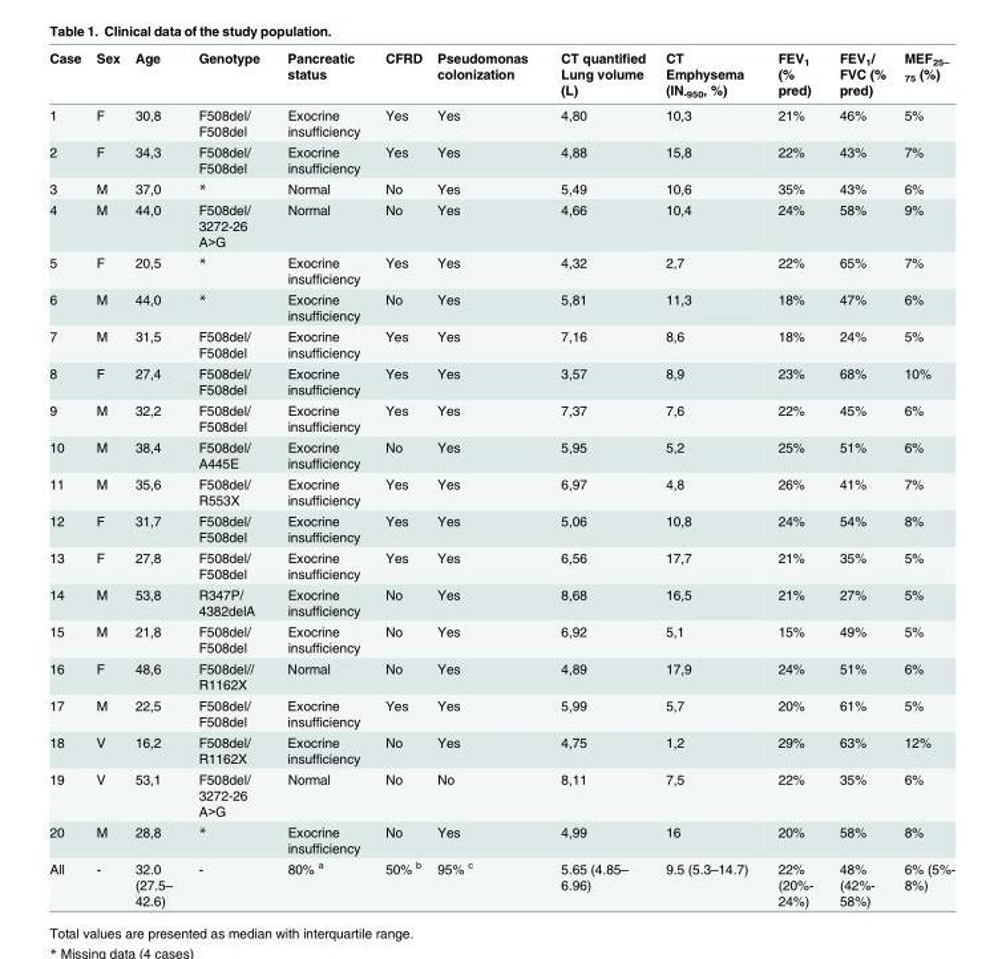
<table><thead><tr><td>Case</td><td>Sex</td><td>Age</td><td>Genotype</td><td>Pancreatic status</td><td>CFRD</td><td>Pseudomonas colonization</td><td>CT quantified Lung volume (L)</td><td>CT Emphysema (IN<sub>-950</sub>, %)</td><td>FEV<sub>1</sub> (% pred)</td><td>FEV<sub>1</sub>/ FVC (% pred)</td><td>MEF<sub>25– 75</sub> (%)</td></tr></thead><tbody><tr><td>1</td><td>F</td><td>30,8</td><td>F508del/ F508del</td><td>Exocrine insufficiency</td><td>Yes</td><td>Yes</td><td>4,80</td><td>10,3</td><td>21%</td><td>46%</td><td>5%</td></tr><tr><td>2</td><td>F</td><td>34,3</td><td>F508del/ F508del</td><td>Exocrine insufficiency</td><td>Yes</td><td>Yes</td><td>4,88</td><td>15,8</td><td>22%</td><td>43%</td><td>7%</td></tr><tr><td>3</td><td>M</td><td>37,0</td><td>*</td><td>Normal</td><td>No</td><td>Yes</td><td>5,49</td><td>10,6</td><td>35%</td><td>43%</td><td>6%</td></tr><tr><td>4</td><td>M</td><td>44,0</td><td>F508del/ 3272-26 A&gt;G</td><td>Normal</td><td>No</td><td>Yes</td><td>4,66</td><td>10,4</td><td>24%</td><td>58%</td><td>9%</td></tr><tr><td>5</td><td>F</td><td>20,5</td><td>*</td><td>Exocrine insufficiency</td><td>Yes</td><td>Yes</td><td>4,32</td><td>2,7</td><td>22%</td><td>65%</td><td>7%</td></tr><tr><td>6</td><td>M</td><td>44,0</td><td>*</td><td>Exocrine insufficiency</td><td>No</td><td>Yes</td><td>5,81</td><td>11,3</td><td>18%</td><td>47%</td><td>6%</td></tr><tr><td>7</td><td>M</td><td>31,5</td><td>F508del/ F508del</td><td>Exocrine insufficiency</td><td>Yes</td><td>Yes</td><td>7,16</td><td>8,6</td><td>18%</td><td>24%</td><td>5%</td></tr><tr><td>8</td><td>F</td><td>27,4</td><td>F508del/ F508del</td><td>Exocrine insufficiency</td><td>Yes</td><td>Yes</td><td>3,57</td><td>8,9</td><td>23%</td><td>68%</td><td>10%</td></tr><tr><td>9</td><td>M</td><td>32,2</td><td>F508del/ F508del</td><td>Exocrine insufficiency</td><td>Yes</td><td>Yes</td><td>7,37</td><td>7,6</td><td>22%</td><td>45%</td><td>6%</td></tr><tr><td>10</td><td>M</td><td>38,4</td><td>F508del/ A445E</td><td>Exocrine insufficiency</td><td>No</td><td>Yes</td><td>5,95</td><td>5,2</td><td>25%</td><td>51%</td><td>6%</td></tr><tr><td>11</td><td>M</td><td>35,6</td><td>F508del/ R553X</td><td>Exocrine insufficiency</td><td>Yes</td><td>Yes</td><td>6,97</td><td>4,8</td><td>26%</td><td>41%</td><td>7%</td></tr><tr><td>12</td><td>F</td><td>31,7</td><td>F508del/ F508del</td><td>Exocrine insufficiency</td><td>Yes</td><td>Yes</td><td>5,06</td><td>10,8</td><td>24%</td><td>54%</td><td>8%</td></tr><tr><td>13</td><td>F</td><td>27,8</td><td>F508del/ F508del</td><td>Exocrine insufficiency</td><td>Yes</td><td>Yes</td><td>6,56</td><td>17,7</td><td>21%</td><td>35%</td><td>5%</td></tr><tr><td>14</td><td>M</td><td>53,8</td><td>R347P/ 4382delA</td><td>Exocrine insufficiency</td><td>No</td><td>Yes</td><td>8,68</td><td>16,5</td><td>21%</td><td>27%</td><td>5%</td></tr><tr><td>15</td><td>M</td><td>21,8</td><td>F508del/ F508del</td><td>Exocrine insufficiency</td><td>No</td><td>Yes</td><td>6,92</td><td>5,1</td><td>15%</td><td>49%</td><td>5%</td></tr><tr><td>16</td><td>F</td><td>48,6</td><td>F508del// R1162X</td><td>Normal</td><td>No</td><td>Yes</td><td>4,89</td><td>17,9</td><td>24%</td><td>51%</td><td>6%</td></tr><tr><td>17</td><td>M</td><td>22,5</td><td>F508del/ F508del</td><td>Exocrine insufficiency</td><td>Yes</td><td>Yes</td><td>5,99</td><td>5,7</td><td>20%</td><td>61%</td><td>5%</td></tr><tr><td>18</td><td>V</td><td>16,2</td><td>F508del/ R1162X</td><td>Exocrine insufficiency</td><td>No</td><td>Yes</td><td>4,75</td><td>1,2</td><td>29%</td><td>63%</td><td>12%</td></tr><tr><td>19</td><td>V</td><td>53,1</td><td>F508del/ 3272-26 A&gt;G</td><td>Normal</td><td>No</td><td>No</td><td>8,11</td><td>7,5</td><td>22%</td><td>35%</td><td>6%</td></tr><tr><td>20</td><td>M</td><td>28,8</td><td>*</td><td>Exocrine insufficiency</td><td>No</td><td>Yes</td><td>4,99</td><td>16</td><td>20%</td><td>58%</td><td>8%</td></tr><tr><td>All</td><td>-</td><td>32.0 (27.5– 42.6)</td><td>-</td><td>80% <sup>a</sup></td><td>50% <sup>b</sup></td><td>95% <sup>c</sup></td><td>5.65 (4.85– 6.96)</td><td>9.5 (5.3–14.7)</td><td>22% (20%- 24%)</td><td>48% (42%- 58%)</td><td>6% (5%- 8%)</td></tr></tbody></table>